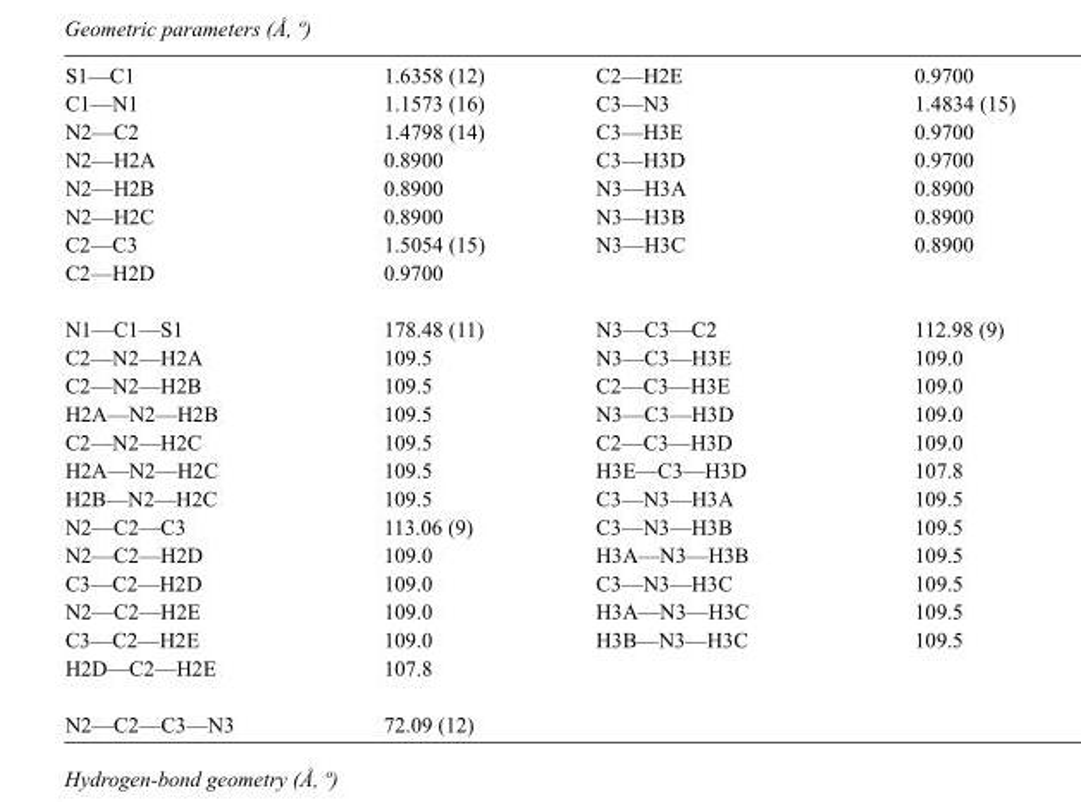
<table><tbody><tr><td>S1—C1</td><td>1.6358 (12)</td><td>C2—H2E</td><td>0.9700</td></tr><tr><td>C1—N1</td><td>1.1573 (16)</td><td>C3—N3</td><td>1.4834 (15)</td></tr><tr><td>N2—C2</td><td>1.4798 (14)</td><td>C3—H3E</td><td>0.9700</td></tr><tr><td>N2—H2A</td><td>0.8900</td><td>C3—H3D</td><td>0.9700</td></tr><tr><td>N2—H2B</td><td>0.8900</td><td>N3—H3A</td><td>0.8900</td></tr><tr><td>N2—H2C</td><td>0.8900</td><td>N3—H3B</td><td>0.8900</td></tr><tr><td>C2—C3</td><td>1.5054 (15)</td><td>N3—H3C</td><td>0.8900</td></tr><tr><td>C2—H2D</td><td>0.9700</td><td></td><td></td></tr><tr><td>N1—C1—S1</td><td>178.48 (11)</td><td>N3—C3—C2</td><td>112.98 (9)</td></tr><tr><td>C2—N2—H2A</td><td>109.5</td><td>N3—C3—H3E</td><td>109.0</td></tr><tr><td>C2—N2—H2B</td><td>109.5</td><td>C2—C3—H3E</td><td>109.0</td></tr><tr><td>H2A—N2—H2B</td><td>109.5</td><td>N3—C3—H3D</td><td>109.0</td></tr><tr><td>C2—N2—H2C</td><td>109.5</td><td>C2—C3—H3D</td><td>109.0</td></tr><tr><td>H2A—N2—H2C</td><td>109.5</td><td>H3E—C3—H3D</td><td>107.8</td></tr><tr><td>H2B—N2—H2C</td><td>109.5</td><td>C3—N3—H3A</td><td>109.5</td></tr><tr><td>N2—C2—C3</td><td>113.06 (9)</td><td>C3—N3—H3B</td><td>109.5</td></tr><tr><td>N2—C2—H2D</td><td>109.0</td><td>H3A—N3—H3B</td><td>109.5</td></tr><tr><td>C3—C2—H2D</td><td>109.0</td><td>C3—N3—H3C</td><td>109.5</td></tr><tr><td>N2—C2—H2E</td><td>109.0</td><td>H3A—N3—H3C</td><td>109.5</td></tr><tr><td>C3—C2—H2E</td><td>109.0</td><td>H3B—N3—H3C</td><td>109.5</td></tr><tr><td>H2D—C2—H2E</td><td>107.8</td><td></td><td></td></tr><tr><td>N2—C2—C3—N3</td><td>72.09 (12)</td><td></td><td></td></tr></tbody></table>